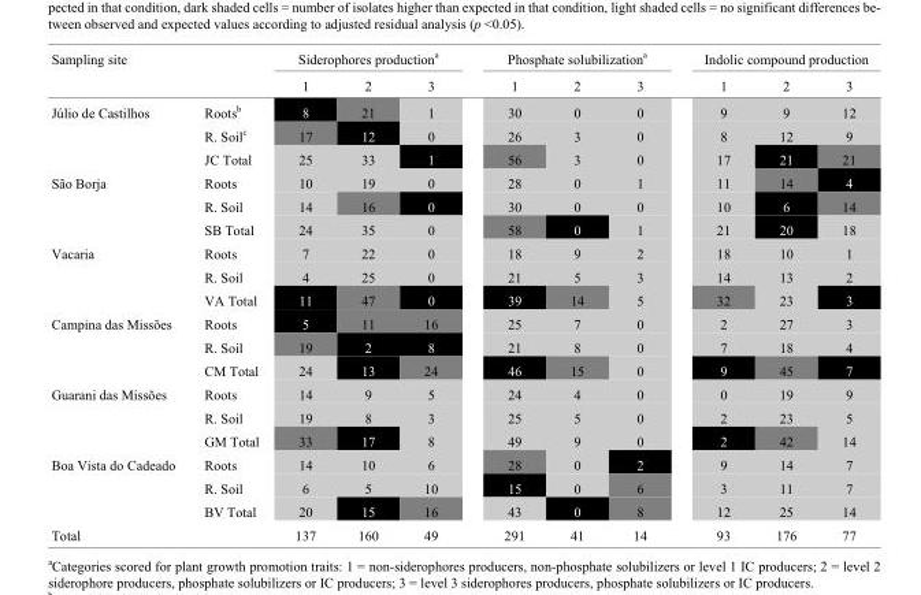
<table><thead><tr><td rowspan="2">Sampling site</td><td rowspan="2"></td><td colspan="3">Siderophores production<sup>a</sup></td><td colspan="3">Phosphate solubilization<sup>a</sup></td><td colspan="3">Indolic compound production</td></tr><tr><td>1</td><td>2</td><td>3</td><td>1</td><td>2</td><td>3</td><td>1</td><td>2</td><td>3</td></tr></thead><tbody><tr><td rowspan="3">Júlio de Castilhos</td><td>Roots<sup>b</sup></td><td>8</td><td>21</td><td>1</td><td>30</td><td>0</td><td>0</td><td>9</td><td>9</td><td>12</td></tr><tr><td>R. Soil<sup>c</sup></td><td>17</td><td>12</td><td>0</td><td>26</td><td>3</td><td>0</td><td>8</td><td>12</td><td>9</td></tr><tr><td>JC Total</td><td>25</td><td>33</td><td>1</td><td>56</td><td>3</td><td>0</td><td>17</td><td>21</td><td>21</td></tr><tr><td rowspan="3">São Borja</td><td>Roots</td><td>10</td><td>19</td><td>0</td><td>28</td><td>0</td><td>1</td><td>11</td><td>14</td><td>4</td></tr><tr><td>R. Soil</td><td>14</td><td>16</td><td>0</td><td>30</td><td>0</td><td>0</td><td>10</td><td>6</td><td>14</td></tr><tr><td>SB Total</td><td>24</td><td>35</td><td>0</td><td>58</td><td>0</td><td>1</td><td>21</td><td>20</td><td>18</td></tr><tr><td rowspan="3">Vacaria</td><td>Roots</td><td>7</td><td>22</td><td>0</td><td>18</td><td>9</td><td>2</td><td>18</td><td>10</td><td>1</td></tr><tr><td>R. Soil</td><td>4</td><td>25</td><td>0</td><td>21</td><td>5</td><td>3</td><td>14</td><td>13</td><td>2</td></tr><tr><td>VA Total</td><td>11</td><td>47</td><td>0</td><td>39</td><td>14</td><td>5</td><td>32</td><td>23</td><td>3</td></tr><tr><td rowspan="3">Campina das Missões</td><td>Roots</td><td>5</td><td>11</td><td>16</td><td>25</td><td>7</td><td>0</td><td>2</td><td>27</td><td>3</td></tr><tr><td>R. Soil</td><td>19</td><td>2</td><td>8</td><td>21</td><td>8</td><td>0</td><td>7</td><td>18</td><td>4</td></tr><tr><td>CM Total</td><td>24</td><td>13</td><td>24</td><td>46</td><td>15</td><td>0</td><td>9</td><td>45</td><td>7</td></tr><tr><td rowspan="3">Guarani das Missões</td><td>Roots</td><td>14</td><td>9</td><td>5</td><td>24</td><td>4</td><td>0</td><td>0</td><td>19</td><td>9</td></tr><tr><td>R. Soil</td><td>19</td><td>8</td><td>3</td><td>25</td><td>5</td><td>0</td><td>2</td><td>23</td><td>5</td></tr><tr><td>GM Total</td><td>33</td><td>17</td><td>8</td><td>49</td><td>9</td><td>0</td><td>2</td><td>42</td><td>14</td></tr><tr><td rowspan="3">Boa Vista do Cadeado</td><td>Roots</td><td>14</td><td>10</td><td>6</td><td>28</td><td>0</td><td>2</td><td>9</td><td>14</td><td>7</td></tr><tr><td>R. Soil</td><td>6</td><td>5</td><td>10</td><td>15</td><td>0</td><td>6</td><td>3</td><td>11</td><td>7</td></tr><tr><td>BV Total</td><td>20</td><td>15</td><td>16</td><td>43</td><td>0</td><td>8</td><td>12</td><td>25</td><td>14</td></tr><tr><td>Total</td><td></td><td>137</td><td>160</td><td>49</td><td>291</td><td>41</td><td>14</td><td>93</td><td>176</td><td>77</td></tr></tbody></table>